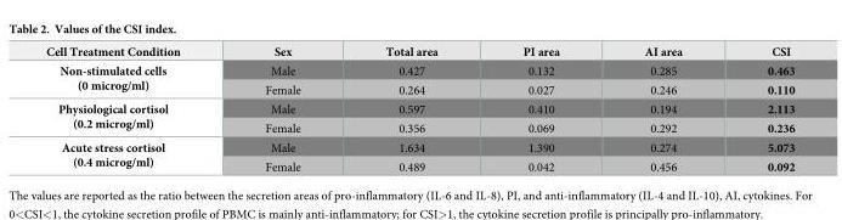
<table><thead><tr><td>Cell Treatment Condition</td><td>Sex</td><td>Total area</td><td>PI area</td><td>AI area</td><td>CSI</td></tr></thead><tbody><tr><td rowspan="2">Non-stimulated cells (0 microg/ml)</td><td>Male</td><td>0.427</td><td>0.132</td><td>0.285</td><td>0.463</td></tr><tr><td>Female</td><td>0.264</td><td>0.027</td><td>0.246</td><td>0.110</td></tr><tr><td rowspan="2">Physiological cortisol (0.2 microg/ml)</td><td>Male</td><td>0.597</td><td>0.410</td><td>0.194</td><td>2.113</td></tr><tr><td>Female</td><td>0.356</td><td>0.069</td><td>0.292</td><td>0.236</td></tr><tr><td rowspan="2">Acute stress cortisol (0.4 microg/ml)</td><td>Male</td><td>1.634</td><td>1.390</td><td>0.274</td><td>5.073</td></tr><tr><td>Female</td><td>0.489</td><td>0.042</td><td>0.456</td><td>0.092</td></tr></tbody></table>